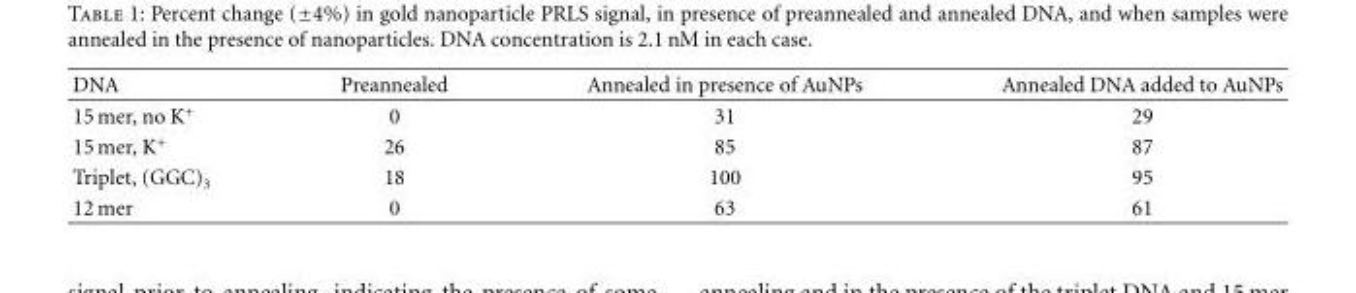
<table><thead><tr><td>DNA</td><td>Preannealed</td><td>Annealed in presence of AuNPs</td><td>Annealed DNA added to AuNPs</td></tr></thead><tbody><tr><td>15 mer, no K<sup>+</sup></td><td>0</td><td>31</td><td>29</td></tr><tr><td>15 mer, K<sup>+</sup></td><td>26</td><td>85</td><td>87</td></tr><tr><td>Triplet, (GGC)<sub>3</sub></td><td>18</td><td>100</td><td>95</td></tr><tr><td>12 mer</td><td>0</td><td>63</td><td>61</td></tr></tbody></table>